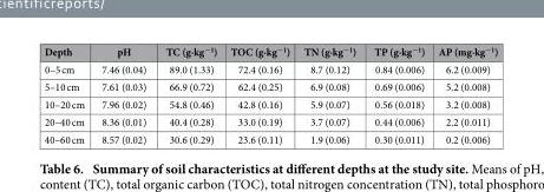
<table><thead><tr><td>Depth</td><td>pH</td><td>TC (g·kg<sup>−1</sup>)</td><td>TOC (g·kg<sup>−1</sup>)</td><td>TN (g·kg<sup>−1</sup>)</td><td>TP (g·kg<sup>−1</sup>)</td><td>AP (mg·kg<sup>−1</sup>)</td></tr></thead><tbody><tr><td>0–5 cm</td><td>7.46 (0.04)</td><td>89.0 (1.33)</td><td>72.4 (0.16)</td><td>8.7 (0.12)</td><td>0.84 (0.006)</td><td>6.2 (0.009)</td></tr><tr><td>5–10 cm</td><td>7.61 (0.03)</td><td>66.9 (0.72)</td><td>62.4 (0.25)</td><td>6.9 (0.08)</td><td>0.69 (0.006)</td><td>5.2 (0.008)</td></tr><tr><td>10–20 cm</td><td>7.96 (0.02)</td><td>54.8 (0.46)</td><td>42.8 (0.16)</td><td>5.9 (0.07)</td><td>0.56 (0.018)</td><td>3.2 (0.008)</td></tr><tr><td>20–40 cm</td><td>8.36 (0.01)</td><td>40.4 (0.28)</td><td>33.0 (0.19)</td><td>3.7 (0.07)</td><td>0.44 (0.006)</td><td>2.2 (0.011)</td></tr><tr><td>40–60 cm</td><td>8.57 (0.02)</td><td>30.6 (0.29)</td><td>23.6 (0.11)</td><td>1.9 (0.06)</td><td>0.30 (0.011)</td><td>0.2 (0.006)</td></tr></tbody></table>